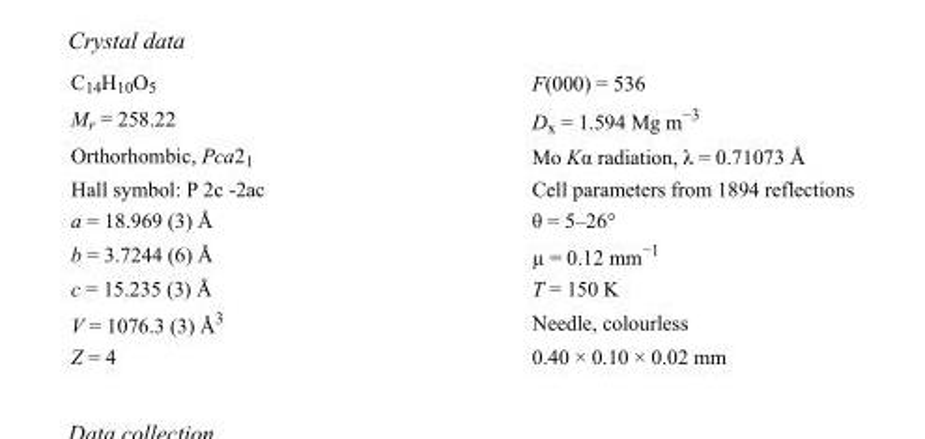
<table><tbody><tr><td>C<sub>14</sub>H<sub>10</sub>O<sub>5</sub></td><td>F(000) = 536</td></tr><tr><td>M<sub>r</sub> = 258.22</td><td>D<sub>x</sub> = 1.594 Mg m<sup>−3</sup></td></tr><tr><td>Orthorhombic, Pca2<sub>1</sub></td><td>Mo Kα radiation, λ = 0.71073 Å</td></tr><tr><td>Hall symbol: P 2c -2ac</td><td>Cell parameters from 1894 reflections</td></tr><tr><td>a = 18.969 (3) Å</td><td>θ = 5–26°</td></tr><tr><td>b = 3.7244 (6) Å</td><td>µ = 0.12 mm<sup>−1</sup></td></tr><tr><td>c = 15.235 (3) Å</td><td>T = 150 K</td></tr><tr><td>V = 1076.3 (3) Å<sup>3</sup></td><td>Needle, colourless</td></tr><tr><td>Z = 4</td><td>0.40 × 0.10 × 0.02 mm</td></tr></tbody></table>